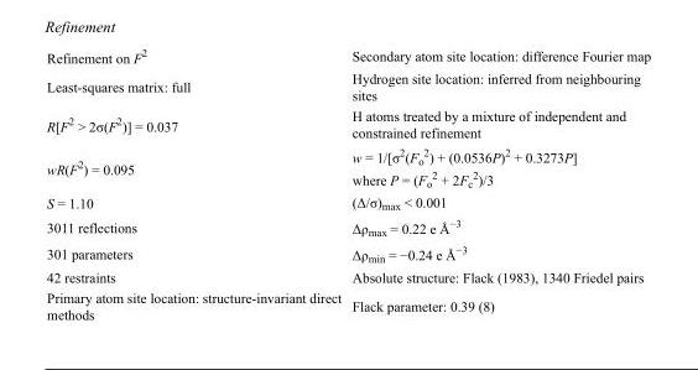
<table><tbody><tr><td>Refinement on F<sup>2</sup></td><td>Secondary atom site location: difference Fourier map</td></tr><tr><td>Least-squares matrix: full</td><td>Hydrogen site location: inferred from neighbouring sites</td></tr><tr><td>R[F<sup>2</sup> &gt; 2σ(F<sup>2</sup>)] = 0.037</td><td>H atoms treated by a mixture of independent and constrained refinement</td></tr><tr><td>wR(F<sup>2</sup>) = 0.095</td><td>w = 1/[σ<sup>2</sup>(F<sub>o</sub> <sup>2</sup>) + (0.0536P)<sup>2</sup> + 0.3273P] where P = (F<sub>o</sub> <sup>2</sup> + 2F<sub>c</sub> <sup>2</sup>)/3</td></tr><tr><td>S = 1.10</td><td>(Δ/σ)<sub>max</sub> &lt; 0.001</td></tr><tr><td>3011 reflections</td><td>Δρ<sub>max</sub> = 0.22 e Å<sup>−3</sup></td></tr><tr><td>301 parameters</td><td>Δρ<sub>min</sub> = −0.24 e Å<sup>−3</sup></td></tr><tr><td>42 restraints</td><td>Absolute structure: Flack (1983), 1340 Friedel pairs</td></tr><tr><td>Primary atom site location: structure-invariant direct methods</td><td>Flack parameter: 0.39 (8)</td></tr></tbody></table>